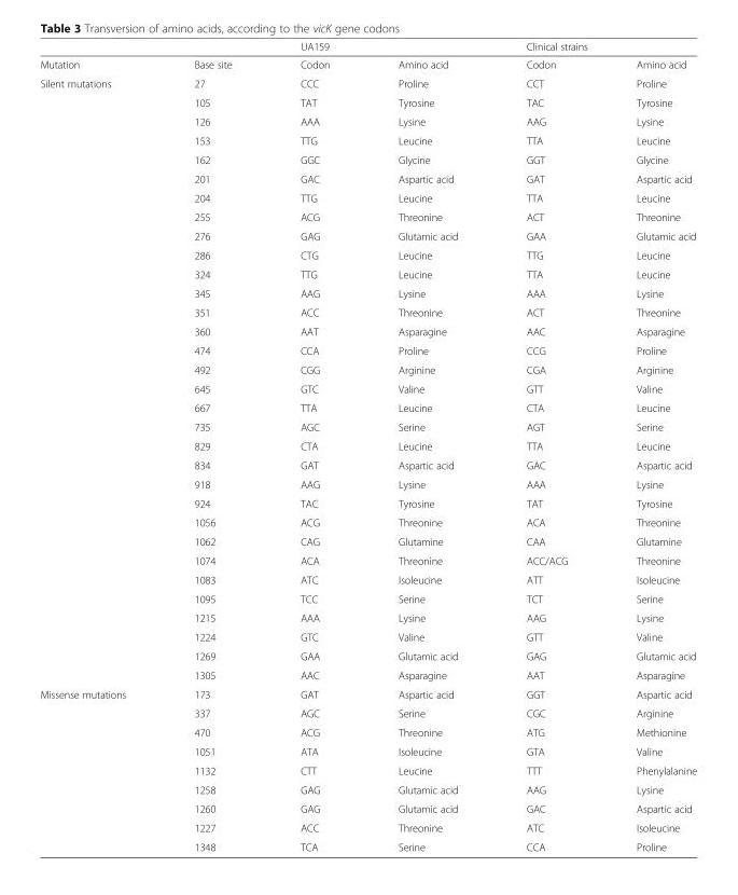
<table><thead><tr><td rowspan="2">Mutation</td><td rowspan="2">Base site</td><td colspan="2">UA159</td><td colspan="2">Clinical strains</td></tr><tr><td>Codon</td><td>Amino acid</td><td>Codon</td><td>Amino acid</td></tr></thead><tbody><tr><td rowspan="32">Silent mutations</td><td>27</td><td>CCC</td><td>Proline</td><td>CCT</td><td>Proline</td></tr><tr><td>105</td><td>TAT</td><td>Tyrosine</td><td>TAC</td><td>Tyrosine</td></tr><tr><td>126</td><td>AAA</td><td>Lysine</td><td>AAG</td><td>Lysine</td></tr><tr><td>153</td><td>TTG</td><td>Leucine</td><td>TTA</td><td>Leucine</td></tr><tr><td>162</td><td>GGC</td><td>Glycine</td><td>GGT</td><td>Glycine</td></tr><tr><td>201</td><td>GAC</td><td>Aspartic acid</td><td>GAT</td><td>Aspartic acid</td></tr><tr><td>204</td><td>TTG</td><td>Leucine</td><td>TTA</td><td>Leucine</td></tr><tr><td>255</td><td>ACG</td><td>Threonine</td><td>ACT</td><td>Threonine</td></tr><tr><td>276</td><td>GAG</td><td>Glutamic acid</td><td>GAA</td><td>Glutamic acid</td></tr><tr><td>286</td><td>CTG</td><td>Leucine</td><td>TTG</td><td>Leucine</td></tr><tr><td>324</td><td>TTG</td><td>Leucine</td><td>TTA</td><td>Leucine</td></tr><tr><td>345</td><td>AAG</td><td>Lysine</td><td>AAA</td><td>Lysine</td></tr><tr><td>351</td><td>ACC</td><td>Threonine</td><td>ACT</td><td>Threonine</td></tr><tr><td>360</td><td>AAT</td><td>Asparagine</td><td>AAC</td><td>Asparagine</td></tr><tr><td>474</td><td>CCA</td><td>Proline</td><td>CCG</td><td>Proline</td></tr><tr><td>492</td><td>CGG</td><td>Arginine</td><td>CGA</td><td>Arginine</td></tr><tr><td>645</td><td>GTC</td><td>Valine</td><td>GTT</td><td>Valine</td></tr><tr><td>667</td><td>TTA</td><td>Leucine</td><td>CTA</td><td>Leucine</td></tr><tr><td>735</td><td>AGC</td><td>Serine</td><td>AGT</td><td>Serine</td></tr><tr><td>829</td><td>CTA</td><td>Leucine</td><td>TTA</td><td>Leucine</td></tr><tr><td>834</td><td>GAT</td><td>Aspartic acid</td><td>GAC</td><td>Aspartic acid</td></tr><tr><td>918</td><td>AAG</td><td>Lysine</td><td>AAA</td><td>Lysine</td></tr><tr><td>924</td><td>TAC</td><td>Tyrosine</td><td>TAT</td><td>Tyrosine</td></tr><tr><td>1056</td><td>ACG</td><td>Threonine</td><td>ACA</td><td>Threonine</td></tr><tr><td>1062</td><td>CAG</td><td>Glutamine</td><td>CAA</td><td>Glutamine</td></tr><tr><td>1074</td><td>ACA</td><td>Threonine</td><td>ACC/ACG</td><td>Threonine</td></tr><tr><td>1083</td><td>ATC</td><td>Isoleucine</td><td>ATT</td><td>Isoleucine</td></tr><tr><td>1095</td><td>TCC</td><td>Serine</td><td>TCT</td><td>Serine</td></tr><tr><td>1215</td><td>AAA</td><td>Lysine</td><td>AAG</td><td>Lysine</td></tr><tr><td>1224</td><td>GTC</td><td>Valine</td><td>GTT</td><td>Valine</td></tr><tr><td>1269</td><td>GAA</td><td>Glutamic acid</td><td>GAG</td><td>Glutamic acid</td></tr><tr><td>1305</td><td>AAC</td><td>Asparagine</td><td>AAT</td><td>Asparagine</td></tr><tr><td rowspan="9">Missense mutations</td><td>173</td><td>GAT</td><td>Aspartic acid</td><td>GGT</td><td>Aspartic acid</td></tr><tr><td>337</td><td>AGC</td><td>Serine</td><td>CGC</td><td>Arginine</td></tr><tr><td>470</td><td>ACG</td><td>Threonine</td><td>ATG</td><td>Methionine</td></tr><tr><td>1051</td><td>ATA</td><td>Isoleucine</td><td>GTA</td><td>Valine</td></tr><tr><td>1132</td><td>CTT</td><td>Leucine</td><td>TTT</td><td>Phenylalanine</td></tr><tr><td>1258</td><td>GAG</td><td>Glutamic acid</td><td>AAG</td><td>Lysine</td></tr><tr><td>1260</td><td>GAG</td><td>Glutamic acid</td><td>GAC</td><td>Aspartic acid</td></tr><tr><td>1227</td><td>ACC</td><td>Threonine</td><td>ATC</td><td>Isoleucine</td></tr><tr><td>1348</td><td>TCA</td><td>Serine</td><td>CCA</td><td>Proline</td></tr></tbody></table>